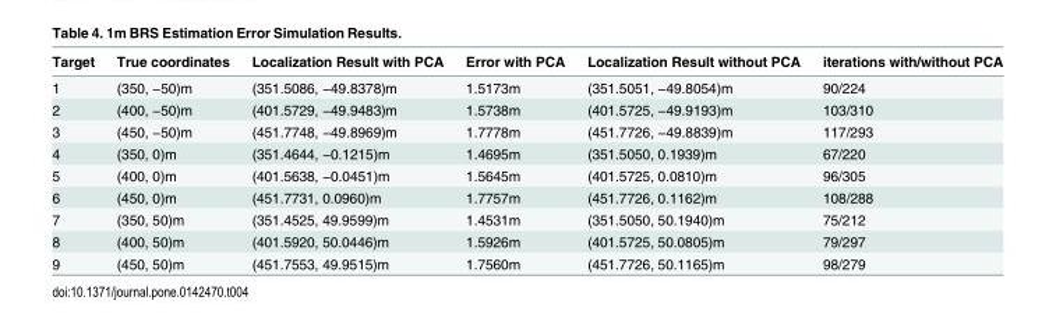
<table><thead><tr><td>Target</td><td>True coordinates</td><td>Localization Result with PCA</td><td>Error with PCA</td><td>Localization Result without PCA</td><td>iterations with/without PCA</td></tr></thead><tbody><tr><td>1</td><td>(350, −50)m</td><td>(351.5086, −49.8378)m</td><td>1.5173m</td><td>(351.5051, −49.8054)m</td><td>90/224</td></tr><tr><td>2</td><td>(400, −50)m</td><td>(401.5729, −49.9483)m</td><td>1.5738m</td><td>(401.5725, −49.9193)m</td><td>103/310</td></tr><tr><td>3</td><td>(450, −50)m</td><td>(451.7748, −49.8969)m</td><td>1.7778m</td><td>(451.7726, −49.8839)m</td><td>117/293</td></tr><tr><td>4</td><td>(350, 0)m</td><td>(351.4644, −0.1215)m</td><td>1.4695m</td><td>(351.5050, 0.1939)m</td><td>67/220</td></tr><tr><td>5</td><td>(400, 0)m</td><td>(401.5638, −0.0451)m</td><td>1.5645m</td><td>(401.5725, 0.0810)m</td><td>96/305</td></tr><tr><td>6</td><td>(450, 0)m</td><td>(451.7731, 0.0960)m</td><td>1.7757m</td><td>(451.7726, 0.1162)m</td><td>108/288</td></tr><tr><td>7</td><td>(350, 50)m</td><td>(351.4525, 49.9599)m</td><td>1.4531m</td><td>(351.5050, 50.1940)m</td><td>75/212</td></tr><tr><td>8</td><td>(400, 50)m</td><td>(401.5920, 50.0446)m</td><td>1.5926m</td><td>(401.5725, 50.0805)m</td><td>79/297</td></tr><tr><td>9</td><td>(450, 50)m</td><td>(451.7553, 49.9515)m</td><td>1.7560m</td><td>(451.7726, 50.1165)m</td><td>98/279</td></tr></tbody></table>